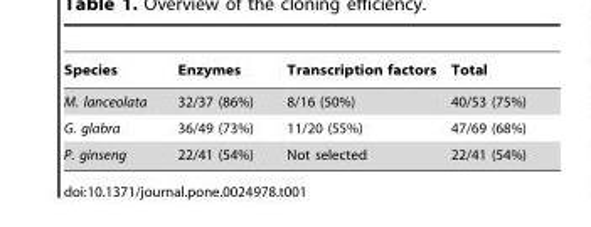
<table><thead><tr><td>Species</td><td>Enzymes</td><td>Transcription factors</td><td>Total</td></tr></thead><tbody><tr><td>M. lanceolata</td><td>32/37 (86%)</td><td>8/16 (50%)</td><td>40/53 (75%)</td></tr><tr><td>G. glabra</td><td>36/49 (73%)</td><td>11/20 (55%)</td><td>47/69 (68%)</td></tr><tr><td>P. ginseng</td><td>22/41 (54%)</td><td>Not selected</td><td>22/41 (54%)</td></tr></tbody></table>